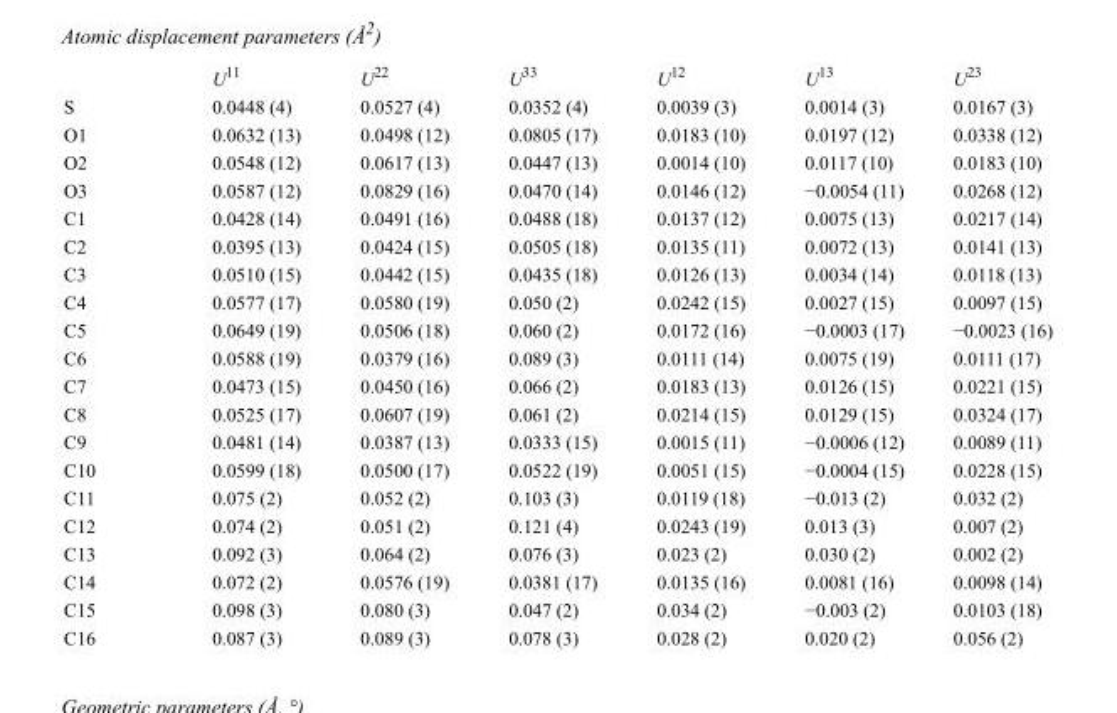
<table><thead><tr><td></td><td>U<sup>11</sup></td><td>U<sup>22</sup></td><td>U<sup>33</sup></td><td>U<sup>12</sup></td><td>U<sup>13</sup></td><td>U<sup>23</sup></td></tr></thead><tbody><tr><td>S</td><td>0.0448 (4)</td><td>0.0527 (4)</td><td>0.0352 (4)</td><td>0.0039 (3)</td><td>0.0014 (3)</td><td>0.0167 (3)</td></tr><tr><td>O1</td><td>0.0632 (13)</td><td>0.0498 (12)</td><td>0.0805 (17)</td><td>0.0183 (10)</td><td>0.0197 (12)</td><td>0.0338 (12)</td></tr><tr><td>O2</td><td>0.0548 (12)</td><td>0.0617 (13)</td><td>0.0447 (13)</td><td>0.0014 (10)</td><td>0.0117 (10)</td><td>0.0183 (10)</td></tr><tr><td>O3</td><td>0.0587 (12)</td><td>0.0829 (16)</td><td>0.0470 (14)</td><td>0.0146 (12)</td><td>−0.0054 (11)</td><td>0.0268 (12)</td></tr><tr><td>C1</td><td>0.0428 (14)</td><td>0.0491 (16)</td><td>0.0488 (18)</td><td>0.0137 (12)</td><td>0.0075 (13)</td><td>0.0217 (14)</td></tr><tr><td>C2</td><td>0.0395 (13)</td><td>0.0424 (15)</td><td>0.0505 (18)</td><td>0.0135 (11)</td><td>0.0072 (13)</td><td>0.0141 (13)</td></tr><tr><td>C3</td><td>0.0510 (15)</td><td>0.0442 (15)</td><td>0.0435 (18)</td><td>0.0126 (13)</td><td>0.0034 (14)</td><td>0.0118 (13)</td></tr><tr><td>C4</td><td>0.0577 (17)</td><td>0.0580 (19)</td><td>0.050 (2)</td><td>0.0242 (15)</td><td>0.0027 (15)</td><td>0.0097 (15)</td></tr><tr><td>C5</td><td>0.0649 (19)</td><td>0.0506 (18)</td><td>0.060 (2)</td><td>0.0172 (16)</td><td>−0.0003 (17)</td><td>−0.0023 (16)</td></tr><tr><td>C6</td><td>0.0588 (19)</td><td>0.0379 (16)</td><td>0.089 (3)</td><td>0.0111 (14)</td><td>0.0075 (19)</td><td>0.0111 (17)</td></tr><tr><td>C7</td><td>0.0473 (15)</td><td>0.0450 (16)</td><td>0.066 (2)</td><td>0.0183 (13)</td><td>0.0126 (15)</td><td>0.0221 (15)</td></tr><tr><td>C8</td><td>0.0525 (17)</td><td>0.0607 (19)</td><td>0.061 (2)</td><td>0.0214 (15)</td><td>0.0129 (15)</td><td>0.0324 (17)</td></tr><tr><td>C9</td><td>0.0481 (14)</td><td>0.0387 (13)</td><td>0.0333 (15)</td><td>0.0015 (11)</td><td>−0.0006 (12)</td><td>0.0089 (11)</td></tr><tr><td>C10</td><td>0.0599 (18)</td><td>0.0500 (17)</td><td>0.0522 (19)</td><td>0.0051 (15)</td><td>−0.0004 (15)</td><td>0.0228 (15)</td></tr><tr><td>C11</td><td>0.075 (2)</td><td>0.052 (2)</td><td>0.103 (3)</td><td>0.0119 (18)</td><td>−0.013 (2)</td><td>0.032 (2)</td></tr><tr><td>C12</td><td>0.074 (2)</td><td>0.051 (2)</td><td>0.121 (4)</td><td>0.0243 (19)</td><td>0.013 (3)</td><td>0.007 (2)</td></tr><tr><td>C13</td><td>0.092 (3)</td><td>0.064 (2)</td><td>0.076 (3)</td><td>0.023 (2)</td><td>0.030 (2)</td><td>0.002 (2)</td></tr><tr><td>C14</td><td>0.072 (2)</td><td>0.0576 (19)</td><td>0.0381 (17)</td><td>0.0135 (16)</td><td>0.0081 (16)</td><td>0.0098 (14)</td></tr><tr><td>C15</td><td>0.098 (3)</td><td>0.080 (3)</td><td>0.047 (2)</td><td>0.034 (2)</td><td>−0.003 (2)</td><td>0.0103 (18)</td></tr><tr><td>C16</td><td>0.087 (3)</td><td>0.089 (3)</td><td>0.078 (3)</td><td>0.028 (2)</td><td>0.020 (2)</td><td>0.056 (2)</td></tr></tbody></table>